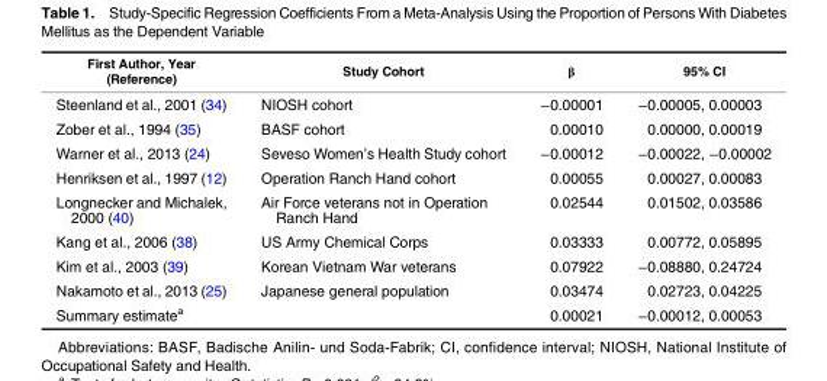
<table><thead><tr><td>First Author, Year (Reference)</td><td>Study Cohort</td><td>β</td><td>95% CI</td></tr></thead><tbody><tr><td>Steenland et al., 2001 (34)</td><td>NIOSH cohort</td><td>−0.00001</td><td>−0.00005, 0.00003</td></tr><tr><td>Zober et al., 1994 (35)</td><td>BASF cohort</td><td>0.00010</td><td>0.00000, 0.00019</td></tr><tr><td>Warner et al., 2013 (24)</td><td>Seveso Women’s Health Study cohort</td><td>−0.00012</td><td>−0.00022, −0.00002</td></tr><tr><td>Henriksen et al., 1997 (12)</td><td>Operation Ranch Hand cohort</td><td>0.00055</td><td>0.00027, 0.00083</td></tr><tr><td>Longnecker and Michalek, 2000 (40)</td><td>Air Force veterans not in Operation Ranch Hand</td><td>0.02544</td><td>0.01502, 0.03586</td></tr><tr><td>Kang et al., 2006 (38)</td><td>US Army Chemical Corps</td><td>0.03333</td><td>0.00772, 0.05895</td></tr><tr><td>Kim et al., 2003 (39)</td><td>Korean Vietnam War veterans</td><td>0.07922</td><td>−0.08880, 0.24724</td></tr><tr><td>Nakamoto et al., 2013 (25)</td><td>Japanese general population</td><td>0.03474</td><td>0.02723, 0.04225</td></tr><tr><td>Summary estimate<sup>a</sup></td><td></td><td>0.00021</td><td>−0.00012, 0.00053</td></tr></tbody></table>